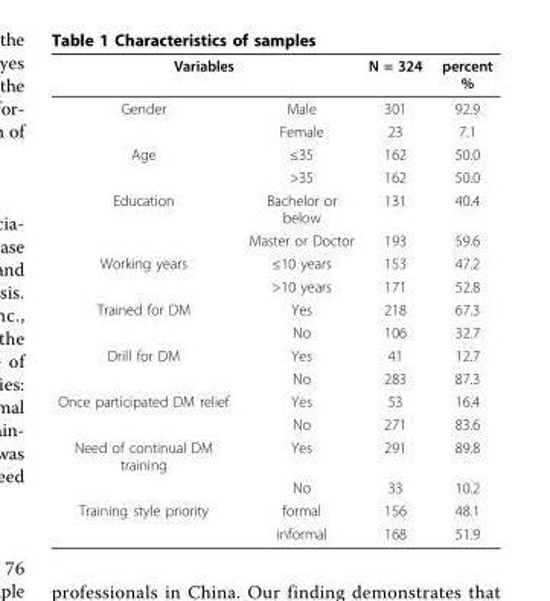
<table><thead><tr><td colspan="2">Variables</td><td rowspan="2">N = 324 301</td><td rowspan="2">percent % 92.9</td></tr><tr><td>Gender</td><td>Male</td></tr></thead><tbody><tr><td></td><td>Female</td><td>23</td><td>7.1</td></tr><tr><td rowspan="2">Age</td><td>≤35</td><td>162</td><td>50.0</td></tr><tr><td>&gt;35</td><td>162</td><td>50.0</td></tr><tr><td rowspan="2">Education</td><td>Bachelor or below</td><td>131</td><td>40.4</td></tr><tr><td>Master or Doctor</td><td>193</td><td>59.6</td></tr><tr><td rowspan="2">Working years</td><td>≤10 years</td><td>153</td><td>47.2</td></tr><tr><td>&gt;10 years</td><td>171</td><td>52.8</td></tr><tr><td rowspan="2">Trained for DM</td><td>Yes</td><td>218</td><td>67.3</td></tr><tr><td>No</td><td>106</td><td>32.7</td></tr><tr><td rowspan="2">Drill for DM</td><td>Yes</td><td>41</td><td>12.7</td></tr><tr><td>No</td><td>283</td><td>87.3</td></tr><tr><td rowspan="2">Once participated DM relief</td><td>Yes</td><td>53</td><td>16.4</td></tr><tr><td>No</td><td>271</td><td>83.6</td></tr><tr><td rowspan="2">Need of continual DM training</td><td>Yes</td><td>291</td><td>89.8</td></tr><tr><td>No</td><td>33</td><td>10.2</td></tr><tr><td rowspan="2">Training style priority</td><td>formal</td><td>156</td><td>48.1</td></tr><tr><td>informal</td><td>168</td><td>51.9</td></tr></tbody></table>